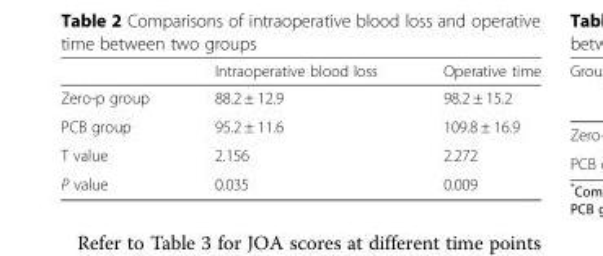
<table><thead><tr><td></td><td>Intraoperative blood loss</td><td>Operative time</td></tr></thead><tbody><tr><td>Zero-p group</td><td>88.2 ± 12.9</td><td>98.2 ± 15.2</td></tr><tr><td>PCB group</td><td>95.2 ± 11.6</td><td>109.8 ± 16.9</td></tr><tr><td>T value</td><td>2.156</td><td>2.272</td></tr><tr><td>P value</td><td>0.035</td><td>0.009</td></tr></tbody></table>